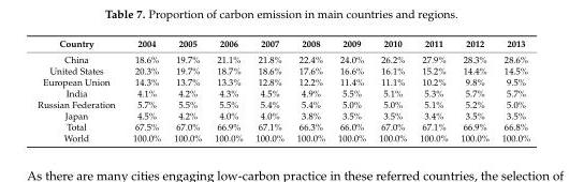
<table><thead><tr><td>Country</td><td>2004</td><td>2005</td><td>2006</td><td>2007</td><td>2008</td><td>2009</td><td>2010</td><td>2011</td><td>2012</td><td>2013</td></tr></thead><tbody><tr><td>China</td><td>18.6%</td><td>19.7%</td><td>21.1%</td><td>21.8%</td><td>22.4%</td><td>24.0%</td><td>26.2%</td><td>27.9%</td><td>28.3%</td><td>28.6%</td></tr><tr><td>United States</td><td>20.3%</td><td>19.7%</td><td>18.7%</td><td>18.6%</td><td>17.6%</td><td>16.6%</td><td>16.1%</td><td>15.2%</td><td>14.4%</td><td>14.5%</td></tr><tr><td>European Union</td><td>14.3%</td><td>13.7%</td><td>13.3%</td><td>12.8%</td><td>12.2%</td><td>11.4%</td><td>11.1%</td><td>10.2%</td><td>9.8%</td><td>9.5%</td></tr><tr><td>India</td><td>4.1%</td><td>4.2%</td><td>4.3%</td><td>4.5%</td><td>4.9%</td><td>5.5%</td><td>5.1%</td><td>5.3%</td><td>5.7%</td><td>5.7%</td></tr><tr><td>Russian Federation</td><td>5.7%</td><td>5.5%</td><td>5.5%</td><td>5.4%</td><td>5.4%</td><td>5.0%</td><td>5.0%</td><td>5.1%</td><td>5.2%</td><td>5.0%</td></tr><tr><td>Japan</td><td>4.5%</td><td>4.2%</td><td>4.0%</td><td>4.0%</td><td>3.8%</td><td>3.5%</td><td>3.5%</td><td>3.4%</td><td>3.5%</td><td>3.5%</td></tr><tr><td>Total</td><td>67.5%</td><td>67.0%</td><td>66.9%</td><td>67.1%</td><td>66.3%</td><td>66.0%</td><td>67.0%</td><td>67.1%</td><td>66.9%</td><td>66.8%</td></tr><tr><td>World</td><td>100.0%</td><td>100.0%</td><td>100.0%</td><td>100.0%</td><td>100.0%</td><td>100.0%</td><td>100.0%</td><td>100.0%</td><td>100.0%</td><td>100.0%</td></tr></tbody></table>